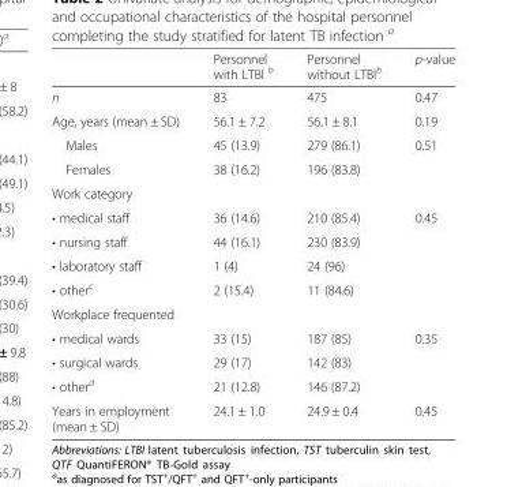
<table><thead><tr><td></td><td>Personnel with LTBI <sup>b</sup></td><td>Personnel without LTBI<sup>b</sup></td><td>p-value</td></tr></thead><tbody><tr><td>n</td><td>83</td><td>475</td><td>0.47</td></tr><tr><td>Age, years (mean ± SD)</td><td>56.1 ± 7.2</td><td>56.1 ± 8.1</td><td>0.19</td></tr><tr><td>Males</td><td>45 (13.9)</td><td>279 (86.1)</td><td rowspan="2">0.51</td></tr><tr><td>Females</td><td>38 (16.2)</td><td>196 (83.8)</td></tr><tr><td colspan="4">Work category</td></tr><tr><td>• medical staff</td><td>36 (14.6)</td><td>210 (85.4)</td><td rowspan="4">0.45</td></tr><tr><td>• nursing staff</td><td>44 (16.1)</td><td>230 (83.9)</td></tr><tr><td>• laboratory staff</td><td>1 (4)</td><td>24 (96)</td></tr><tr><td>• other<sup>c</sup></td><td>2 (15.4)</td><td>11 (84.6)</td></tr><tr><td colspan="4">Workplace frequented</td></tr><tr><td>• medical wards</td><td>33 (15)</td><td>187 (85)</td><td rowspan="3">0.35</td></tr><tr><td>• surgical wards</td><td>29 (17)</td><td>142 (83)</td></tr><tr><td>• other<sup>d</sup></td><td>21 (12.8)</td><td>146 (87.2)</td></tr><tr><td>Years in employment (mean ± SD)</td><td>24.1 ± 1.0</td><td>24.9 ± 0.4</td><td>0.45</td></tr></tbody></table>